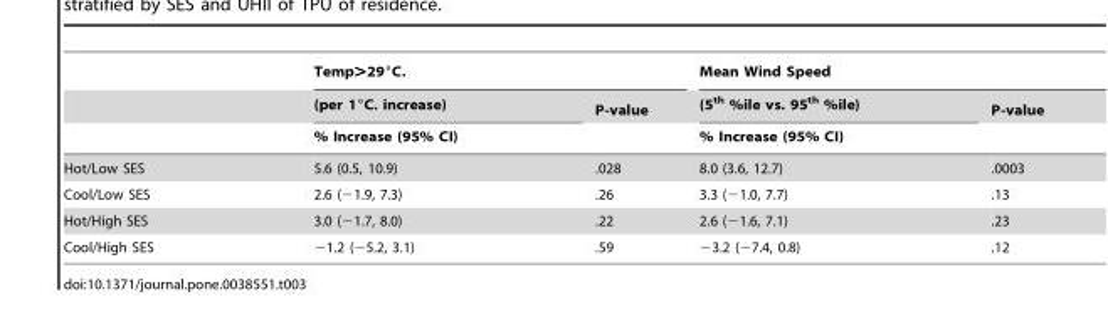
<table><thead><tr><td rowspan="3"></td><td colspan="2">Temp&gt;29°C.</td><td colspan="2">Mean Wind Speed</td></tr><tr><td rowspan="2">(per 1°C. increase) % Increase (95% CI)</td><td rowspan="2">P-value</td><td rowspan="2">(5<sup>th</sup> %ile vs. 95<sup>th</sup> %ile) % Increase (95% CI)</td><td rowspan="2">P-value</td></tr><tr></tr></thead><tbody><tr><td>Hot/Low SES</td><td>5.6 (0.5, 10.9)</td><td>.028</td><td>8.0 (3.6, 12.7)</td><td>.0003</td></tr><tr><td>Cool/Low SES</td><td>2.6 (−1.9, 7.3)</td><td>.26</td><td>3.3 (−1.0, 7.7)</td><td>.13</td></tr><tr><td>Hot/High SES</td><td>3.0 (−1.7, 8.0)</td><td>.22</td><td>2.6 (−1.6, 7.1)</td><td>.23</td></tr><tr><td>Cool/High SES</td><td>−1.2 (−5.2, 3.1)</td><td>.59</td><td>−3.2 (−7.4, 0.8)</td><td>.12</td></tr></tbody></table>